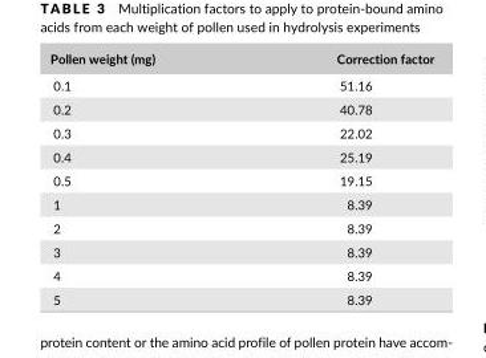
<table><thead><tr><td>Pollen weight (mg)</td><td>Correction factor</td></tr></thead><tbody><tr><td>0.1</td><td>51.16</td></tr><tr><td>0.2</td><td>40.78</td></tr><tr><td>0.3</td><td>22.02</td></tr><tr><td>0.4</td><td>25.19</td></tr><tr><td>0.5</td><td>19.15</td></tr><tr><td>1</td><td>8.39</td></tr><tr><td>2</td><td>8.39</td></tr><tr><td>3</td><td>8.39</td></tr><tr><td>4</td><td>8.39</td></tr><tr><td>5</td><td>8.39</td></tr></tbody></table>